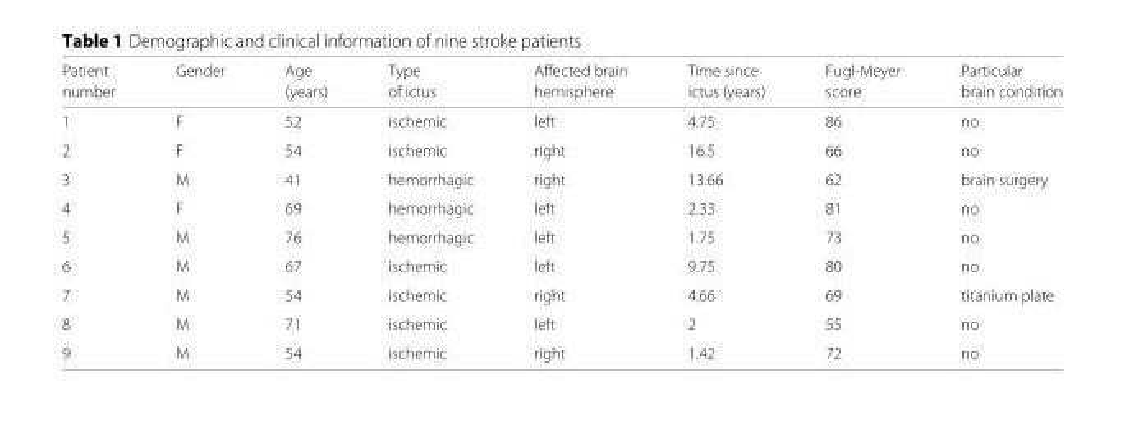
<table><thead><tr><td rowspan="2">Patient number</td><td rowspan="2">Gender</td><td rowspan="2">Age (years)</td><td rowspan="2">Type of ictus</td><td rowspan="2">Affected brain hemisphere</td><td rowspan="2">Time since ictus (years)</td><td rowspan="2">Fugl-Meyer score</td><td rowspan="2">Particular brain condition</td></tr><tr></tr></thead><tbody><tr><td>1</td><td>F</td><td>52</td><td>ischemic</td><td>left</td><td>4.75</td><td>86</td><td>no</td></tr><tr><td>2</td><td>F</td><td>54</td><td>ischemic</td><td>right</td><td>16.5</td><td>66</td><td>no</td></tr><tr><td>3</td><td>M</td><td>41</td><td>hemorrhagic</td><td>right</td><td>13.66</td><td>62</td><td>brain surgery</td></tr><tr><td>4</td><td>F</td><td>69</td><td>hemorrhagic</td><td>left</td><td>2.33</td><td>81</td><td>no</td></tr><tr><td>5</td><td>M</td><td>76</td><td>hemorrhagic</td><td>left</td><td>1.75</td><td>73</td><td>no</td></tr><tr><td>6</td><td>M</td><td>67</td><td>ischemic</td><td>left</td><td>9.75</td><td>80</td><td>no</td></tr><tr><td>7</td><td>M</td><td>54</td><td>ischemic</td><td>right</td><td>4.66</td><td>69</td><td>titanium plate</td></tr><tr><td>8</td><td>M</td><td>71</td><td>ischemic</td><td>left</td><td>2</td><td>55</td><td>no</td></tr><tr><td>9</td><td>M</td><td>54</td><td>ischemic</td><td>right</td><td>1.42</td><td>72</td><td>no</td></tr></tbody></table>